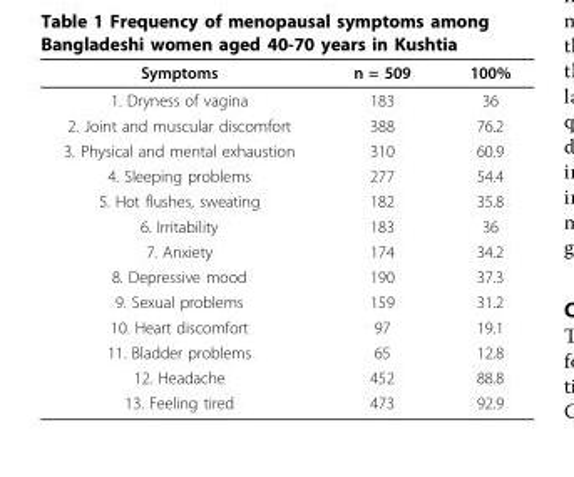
<table><thead><tr><td>Symptoms</td><td>n = 509</td><td>100%</td></tr></thead><tbody><tr><td>1. Dryness of vagina</td><td>183</td><td>36</td></tr><tr><td>2. Joint and muscular discomfort</td><td>388</td><td>76.2</td></tr><tr><td>3. Physical and mental exhaustion</td><td>310</td><td>60.9</td></tr><tr><td>4. Sleeping problems</td><td>277</td><td>54.4</td></tr><tr><td>5. Hot flushes, sweating</td><td>182</td><td>35.8</td></tr><tr><td>6. Irritability</td><td>183</td><td>36</td></tr><tr><td>7. Anxiety</td><td>174</td><td>34.2</td></tr><tr><td>8. Depressive mood</td><td>190</td><td>37.3</td></tr><tr><td>9. Sexual problems</td><td>159</td><td>31.2</td></tr><tr><td>10. Heart discomfort</td><td>97</td><td>19.1</td></tr><tr><td>11. Bladder problems</td><td>65</td><td>12.8</td></tr><tr><td>12. Headache</td><td>452</td><td>88.8</td></tr><tr><td>13. Feeling tired</td><td>473</td><td>92.9</td></tr></tbody></table>